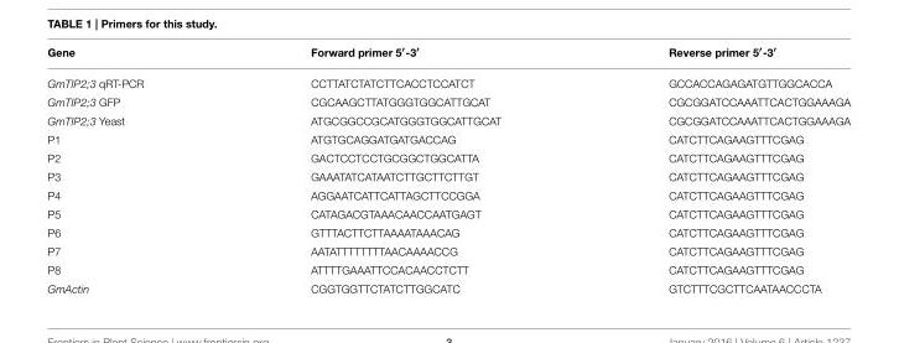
<table><thead><tr><td>Gene</td><td>Forward primer 5′-3′</td><td>Reverse primer 5′-3′</td></tr></thead><tbody><tr><td>GmTIP2;3 qRT-PCR</td><td>CCTTATCTATCTTCACCTCCATCT</td><td>GCCACCAGAGATGTTGGCACCA</td></tr><tr><td>GmTIP2;3 GFP</td><td>CGCAAGCTTATGGGTGGCATTGCAT</td><td>CGCGGATCCAAATTCACTGGAAAGA</td></tr><tr><td>GmTIP2;3 Yeast</td><td>ATGCGGCCGCATGGGTGGCATTGCAT</td><td>CGCGGATCCAAATTCACTGGAAAGA</td></tr><tr><td>P1</td><td>ATGTGCAGGATGATGACCAG</td><td>CATCTTCAGAAGTTTCGAG</td></tr><tr><td>P2</td><td>GACTCCTCCTGCGGCTGGCATTA</td><td>CATCTTCAGAAGTTTCGAG</td></tr><tr><td>P3</td><td>GAAATATCATAATCTTGCTTCTTGT</td><td>CATCTTCAGAAGTTTCGAG</td></tr><tr><td>P4</td><td>AGGAATCATTCATTAGCTTCCGGA</td><td>CATCTTCAGAAGTTTCGAG</td></tr><tr><td>P5</td><td>CATAGACGTAAACAACCAATGAGT</td><td>CATCTTCAGAAGTTTCGAG</td></tr><tr><td>P6</td><td>GTTTACTTCTTAAAATAAACAG</td><td>CATCTTCAGAAGTTTCGAG</td></tr><tr><td>P7</td><td>AATATTTTTTTTAACAAAACCG</td><td>CATCTTCAGAAGTTTCGAG</td></tr><tr><td>P8</td><td>ATTTTGAAATTCCACAACCTCTT</td><td>CATCTTCAGAAGTTTCGAG</td></tr><tr><td>GmActin</td><td>CGGTGGTTCTATCTTGGCATC</td><td>GTCTTTCGCTTCAATAACCCTA</td></tr></tbody></table>